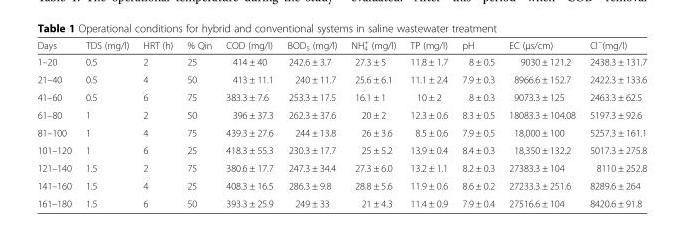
<table><thead><tr><td>Days</td><td>TDS (mg/l)</td><td>HRT (h)</td><td>% Qin</td><td>COD (mg/l)</td><td>BOD<sub>5</sub> (mg/l)</td><td>NH<sup>+</sup> <sub>4</sub> (mg/l)</td><td>TP (mg/l)</td><td>pH</td><td>EC (μs/cm)</td><td>Cl<sup>−</sup>(mg/l)</td></tr></thead><tbody><tr><td>1–20</td><td>0.5</td><td>2</td><td>25</td><td>414 ± 40</td><td>242.6 ± 3.7</td><td>27.3 ± 5</td><td>11.8 ± 1.7</td><td>8 ± 0.5</td><td>9030 ± 121.2</td><td>2438.3 ± 131.7</td></tr><tr><td>21–40</td><td>0.5</td><td>4</td><td>50</td><td>413 ± 11.1</td><td>240 ± 11.7</td><td>25.6 ± 6.1</td><td>11.1 ± 2.4</td><td>7.9 ± 0.3</td><td>8966.6 ± 152.7</td><td>2422.3 ± 133.6</td></tr><tr><td>41–60</td><td>0.5</td><td>6</td><td>75</td><td>383.3 ± 7.6</td><td>253.3 ± 17.5</td><td>16.1 ± 1</td><td>10 ± 2</td><td>8 ± 0.3</td><td>9073.3 ± 125</td><td>2463.3 ± 62.5</td></tr><tr><td>61–80</td><td>1</td><td>2</td><td>50</td><td>396 ± 37.3</td><td>262.3 ± 37.6</td><td>20 ± 2</td><td>12.3 ± 0.6</td><td>8.3 ± 0.5</td><td>18083.3 ± 104.08</td><td>5197.3 ± 92.6</td></tr><tr><td>81–100</td><td>1</td><td>4</td><td>75</td><td>439.3 ± 27.6</td><td>244 ± 13.8</td><td>26 ± 3.6</td><td>8.5 ± 0.6</td><td>7.9 ± 0.5</td><td>18,000 ± 100</td><td>5257.3 ± 161.1</td></tr><tr><td>101–120</td><td>1</td><td>6</td><td>25</td><td>418.3 ± 55.3</td><td>230.3 ± 17.7</td><td>25 ± 5.2</td><td>13.9 ± 0.4</td><td>8.4 ± 0.3</td><td>18,350 ± 132.2</td><td>5017.3 ± 275.8</td></tr><tr><td>121–140</td><td>1.5</td><td>2</td><td>75</td><td>380.6 ± 17.7</td><td>247.3 ± 34.4</td><td>27.3 ± 6.0</td><td>13.2 ± 1.1</td><td>8.2 ± 0.3</td><td>27383.3 ± 104</td><td>8110 ± 252.8</td></tr><tr><td>141–160</td><td>1.5</td><td>4</td><td>25</td><td>408.3 ± 16.5</td><td>286.3 ± 9.8</td><td>28.8 ± 5.6</td><td>11.9 ± 0.6</td><td>8.6 ± 0.2</td><td>27233.3 ± 251.6</td><td>8289.6 ± 264</td></tr><tr><td>161–180</td><td>1.5</td><td>6</td><td>50</td><td>393.3 ± 25.9</td><td>249 ± 33</td><td>21 ± 4.3</td><td>11.4 ± 0.9</td><td>7.9 ± 0.4</td><td>27516.6 ± 104</td><td>8420.6 ± 91.8</td></tr></tbody></table>